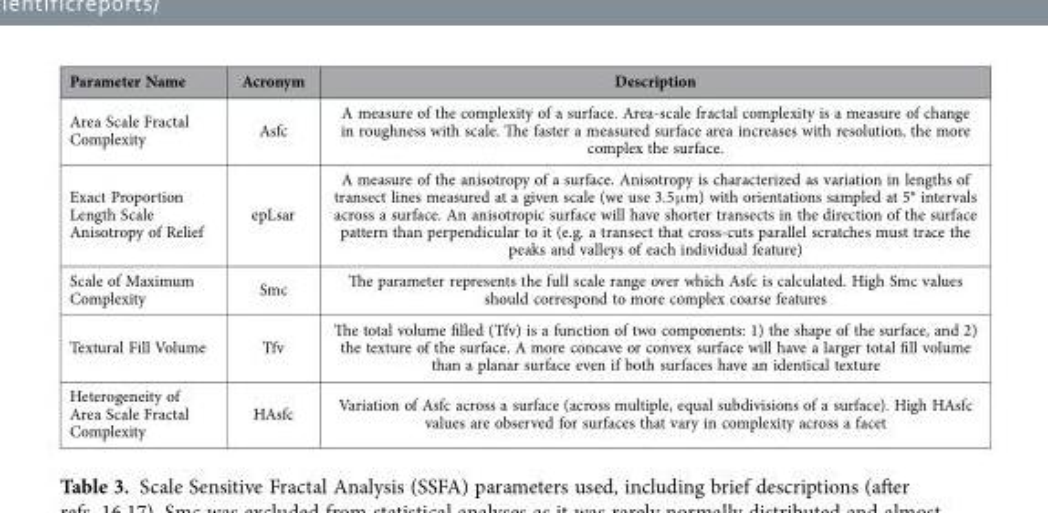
<table><thead><tr><td>Parameter Name</td><td>Acronym</td><td>Description</td></tr></thead><tbody><tr><td>Area Scale Fractal Complexity</td><td>Asfc</td><td>A measure of the complexity of a surface. Area-scale fractal complexity is a measure of change in roughness with scale. The faster a measured surface area increases with resolution, the more complex the surface.</td></tr><tr><td>Exact Proportion Length Scale Anisotropy of Relief</td><td>epLsar</td><td>A measure of the anisotropy of a surface. Anisotropy is characterized as variation in lengths of transect lines measured at a given scale (we use 3.5 μ m) with orientations sampled at 5° intervals across a surface. An anisotropic surface will have shorter transects in the direction of the surface pattern than perpendicular to it (e.g. a transect that cross-cuts parallel scratches must trace the peaks and valleys of each individual feature)</td></tr><tr><td>Scale of Maximum Complexity</td><td>Smc</td><td>The parameter represents the full scale range over which Asfc is calculated. High Smc values should correspond to more complex coarse features</td></tr><tr><td>Textural Fill Volume</td><td>Tfv</td><td>The total volume filled (Tfv) is a function of two components: 1) the shape of the surface, and 2) the texture of the surface. A more concave or convex surface will have a larger total fill volume than a planar surface even if both surfaces have an identical texture</td></tr><tr><td>Heterogeneity of Area Scale Fractal Complexity</td><td>HAsfc</td><td>Variation of Asfc across a surface (across multiple, equal subdivisions of a surface). High HAsfc values are observed for surfaces that vary in complexity across a facet</td></tr></tbody></table>